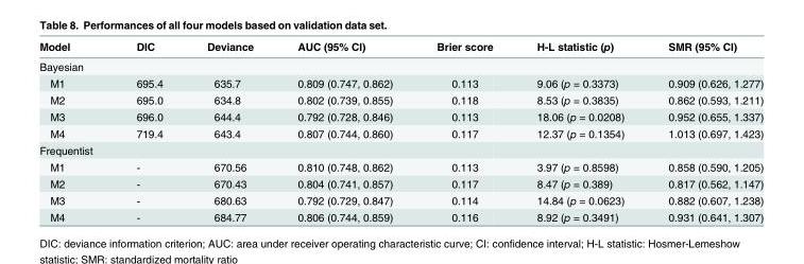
<table><thead><tr><td>Model</td><td>DIC</td><td>Deviance</td><td>AUC (95% CI)</td><td>Brier score</td><td>H-L statistic (p)</td><td>SMR (95% CI)</td></tr></thead><tbody><tr><td colspan="7">Bayesian</td></tr><tr><td>M1</td><td>695.4</td><td>635.7</td><td>0.809 (0.747, 0.862)</td><td>0.113</td><td>9.06 (p = 0.3373)</td><td>0.909 (0.626, 1.277)</td></tr><tr><td>M2</td><td>695.0</td><td>634.8</td><td>0.802 (0.739, 0.855)</td><td>0.118</td><td>8.53 (p = 0.3835)</td><td>0.862 (0.593, 1.211)</td></tr><tr><td>M3</td><td>696.0</td><td>644.4</td><td>0.792 (0.728, 0.846)</td><td>0.113</td><td>18.06 (p = 0.0208)</td><td>0.952 (0.655, 1.337)</td></tr><tr><td>M4</td><td>719.4</td><td>643.4</td><td>0.807 (0.744, 0.860)</td><td>0.117</td><td>12.37 (p = 0.1354)</td><td>1.013 (0.697, 1.423)</td></tr><tr><td colspan="7">Frequentist</td></tr><tr><td>M1</td><td>-</td><td>670.56</td><td>0.810 (0.748, 0.862)</td><td>0.113</td><td>3.97 (p = 0.8598)</td><td>0.858 (0.590, 1.205)</td></tr><tr><td>M2</td><td>-</td><td>670.43</td><td>0.804 (0.741, 0.857)</td><td>0.117</td><td>8.47 (p = 0.389)</td><td>0.817 (0.562, 1.147)</td></tr><tr><td>M3</td><td>-</td><td>680.63</td><td>0.792 (0.729, 0.847)</td><td>0.114</td><td>14.84 (p = 0.0623)</td><td>0.882 (0.607, 1.238)</td></tr><tr><td>M4</td><td>-</td><td>684.77</td><td>0.806 (0.744, 0.859)</td><td>0.116</td><td>8.92 (p = 0.3491)</td><td>0.931 (0.641, 1.307)</td></tr></tbody></table>